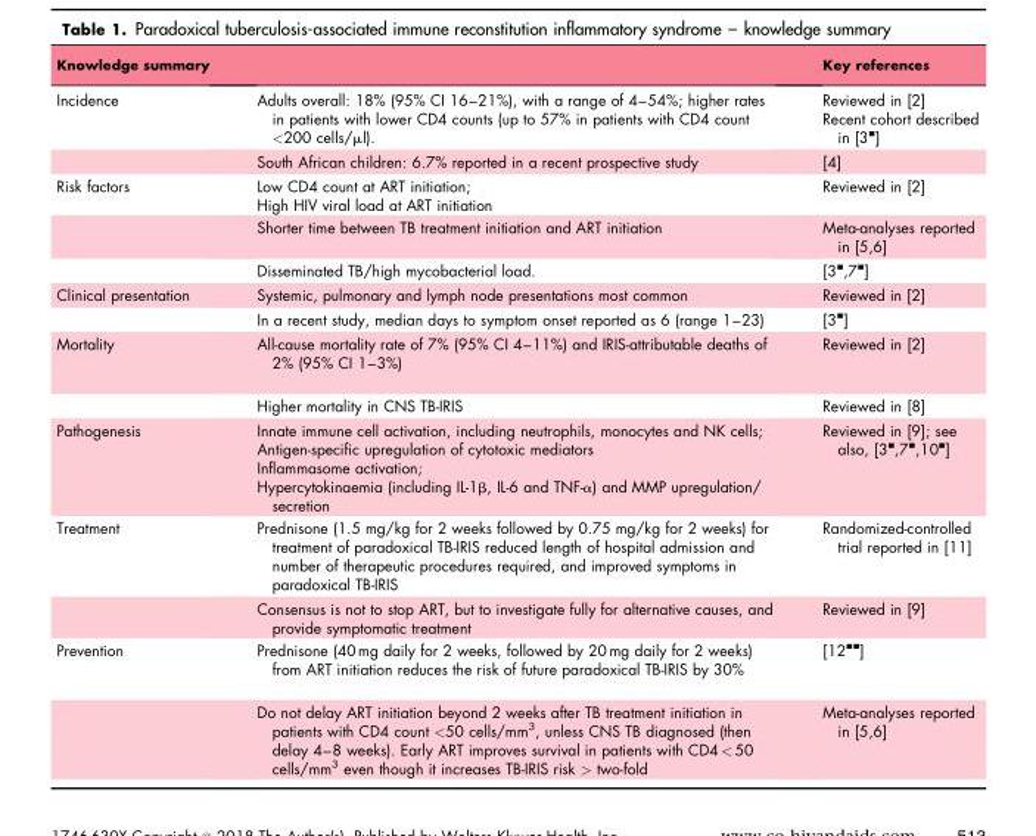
<table><thead><tr><td>Knowledge summary</td><td></td><td>Key references</td></tr></thead><tbody><tr><td rowspan="2">Incidence</td><td>Adults overall: 18% (95% CI 16–21%), with a range of 4–54%; higher rates in patients with lower CD4 counts (up to 57% in patients with CD4 count &lt;200 cells/μl).</td><td>Reviewed in [2] Recent cohort described in [3 <sup>▪</sup>]</td></tr><tr><td>South African children: 6.7% reported in a recent prospective study</td><td>[4]</td></tr><tr><td rowspan="3">Risk factors</td><td>Low CD4 count at ART initiation; High HIV viral load at ART initiation</td><td>Reviewed in [2]</td></tr><tr><td>Shorter time between TB treatment initiation and ART initiation</td><td>Meta-analyses reported in [5,6]</td></tr><tr><td>Disseminated TB/high mycobacterial load.</td><td>[3 <sup>▪</sup>,7 <sup>▪</sup>]</td></tr><tr><td rowspan="2">Clinical presentation</td><td>Systemic, pulmonary and lymph node presentations most common</td><td>Reviewed in [2]</td></tr><tr><td>In a recent study, median days to symptom onset reported as 6 (range 1–23)</td><td>[3 <sup>▪</sup>]</td></tr><tr><td rowspan="2">Mortality</td><td>All-cause mortality rate of 7% (95% CI 4–11%) and IRIS-attributable deaths of 2% (95% CI 1–3%)</td><td>Reviewed in [2]</td></tr><tr><td>Higher mortality in CNS TB-IRIS</td><td>Reviewed in [8]</td></tr><tr><td>Pathogenesis</td><td>Innate immune cell activation, including neutrophils, monocytes and NK cells; Antigen-specific upregulation of cytotoxic mediators Inflammasome activation; Hypercytokinaemia (including IL-1β, IL-6 and TNF-α) and MMP upregulation/ secretion</td><td>Reviewed in [9]; see also, [3 <sup>▪</sup>,7 <sup>▪</sup>,10 <sup>▪</sup>]</td></tr><tr><td rowspan="2">Treatment</td><td>Prednisone (1.5 mg/kg for 2 weeks followed by 0.75 mg/kg for 2 weeks) for treatment of paradoxical TB-IRIS reduced length of hospital admission and number of therapeutic procedures required, and improved symptoms in paradoxical TB-IRIS</td><td>Randomized-controlled trial reported in [11]</td></tr><tr><td>Consensus is not to stop ART, but to investigate fully for alternative causes, and provide symptomatic treatment</td><td>Reviewed in [9]</td></tr><tr><td rowspan="2">Prevention</td><td>Prednisone (40 mg daily for 2 weeks, followed by 20 mg daily for 2 weeks) from ART initiation reduces the risk of future paradoxical TB-IRIS by 30%</td><td>[12 <sup>▪▪</sup>]</td></tr><tr><td>Do not delay ART initiation beyond 2 weeks after TB treatment initiation in patients with CD4 count &lt;50 cells/mm<sup>3</sup>, unless CNS TB diagnosed (then delay 4–8 weeks). Early ART improves survival in patients with CD4 &lt; 50 cells/mm<sup>3</sup> even though it increases TB-IRIS risk &gt; two-fold</td><td>Meta-analyses reported in [5,6]</td></tr></tbody></table>